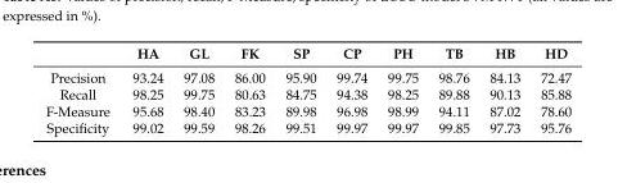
<table><thead><tr><td></td><td>HA</td><td>GL</td><td>FK</td><td>SP</td><td>CP</td><td>PH</td><td>TB</td><td>HB</td><td>HD</td></tr></thead><tbody><tr><td>Precision</td><td>93.24</td><td>97.08</td><td>86.00</td><td>95.90</td><td>99.74</td><td>99.75</td><td>98.76</td><td>84.13</td><td>72.47</td></tr><tr><td>Recall</td><td>98.25</td><td>99.75</td><td>80.63</td><td>84.75</td><td>94.38</td><td>98.25</td><td>89.88</td><td>90.13</td><td>85.88</td></tr><tr><td>F-Measure</td><td>95.68</td><td>98.40</td><td>83.23</td><td>89.98</td><td>96.98</td><td>98.99</td><td>94.11</td><td>87.02</td><td>78.60</td></tr><tr><td>Specificity</td><td>99.02</td><td>99.59</td><td>98.26</td><td>99.51</td><td>99.97</td><td>99.97</td><td>99.85</td><td>97.73</td><td>95.76</td></tr></tbody></table>